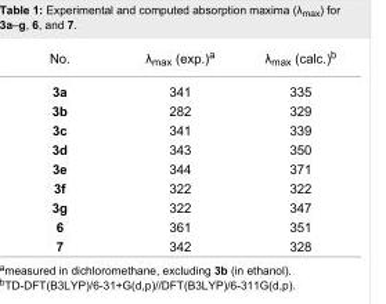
<table><tbody><tr><td>No.</td><td>λ<sub>max</sub> (exp.)<sup>a</sup></td><td>λ<sub>max</sub> (calc.)<sup>b</sup></td></tr><tr><td>3a</td><td>341</td><td>335</td></tr><tr><td>3b</td><td>282</td><td>329</td></tr><tr><td>3c</td><td>341</td><td>339</td></tr><tr><td>3d</td><td>343</td><td>350</td></tr><tr><td>3e</td><td>344</td><td>371</td></tr><tr><td>3f</td><td>322</td><td>322</td></tr><tr><td>3g</td><td>322</td><td>347</td></tr><tr><td>6</td><td>361</td><td>351</td></tr><tr><td>7</td><td>342</td><td>328</td></tr></tbody></table>